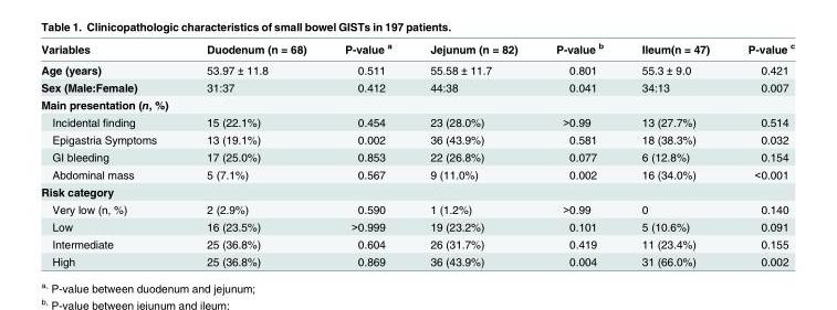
<table><thead><tr><td>Variables</td><td>Duodenum (n = 68)</td><td>P-value <sup>a</sup></td><td>Jejunum (n = 82)</td><td>P-value <sup>b</sup></td><td>Ileum(n = 47)</td><td>P-value <sup>c</sup></td></tr></thead><tbody><tr><td>Age (years)</td><td>53.97 ± 11.8</td><td>0.511</td><td>55.58 ± 11.7</td><td>0.801</td><td>55.3 ± 9.0</td><td>0.421</td></tr><tr><td>Sex (Male:Female)</td><td>31:37</td><td>0.412</td><td>44:38</td><td>0.041</td><td>34:13</td><td>0.007</td></tr><tr><td colspan="7">Main presentation (n, %)</td></tr><tr><td>Incidental finding</td><td>15 (22.1%)</td><td>0.454</td><td>23 (28.0%)</td><td>&gt;0.99</td><td>13 (27.7%)</td><td>0.514</td></tr><tr><td>Epigastria Symptoms</td><td>13 (19.1%)</td><td>0.002</td><td>36 (43.9%)</td><td>0.581</td><td>18 (38.3%)</td><td>0.032</td></tr><tr><td>GI bleeding</td><td>17 (25.0%)</td><td>0.853</td><td>22 (26.8%)</td><td>0.077</td><td>6 (12.8%)</td><td>0.154</td></tr><tr><td>Abdominal mass</td><td>5 (7.1%)</td><td>0.567</td><td>9 (11.0%)</td><td>0.002</td><td>16 (34.0%)</td><td>&lt;0.001</td></tr><tr><td colspan="7">Risk category</td></tr><tr><td>Very low (n, %)</td><td>2 (2.9%)</td><td>0.590</td><td>1 (1.2%)</td><td>&gt;0.99</td><td>0</td><td>0.140</td></tr><tr><td>Low</td><td>16 (23.5%)</td><td>&gt;0.999</td><td>19 (23.2%)</td><td>0.101</td><td>5 (10.6%)</td><td>0.091</td></tr><tr><td>Intermediate</td><td>25 (36.8%)</td><td>0.604</td><td>26 (31.7%)</td><td>0.419</td><td>11 (23.4%)</td><td>0.155</td></tr><tr><td>High</td><td>25 (36.8%)</td><td>0.869</td><td>36 (43.9%)</td><td>0.004</td><td>31 (66.0%)</td><td>0.002</td></tr></tbody></table>